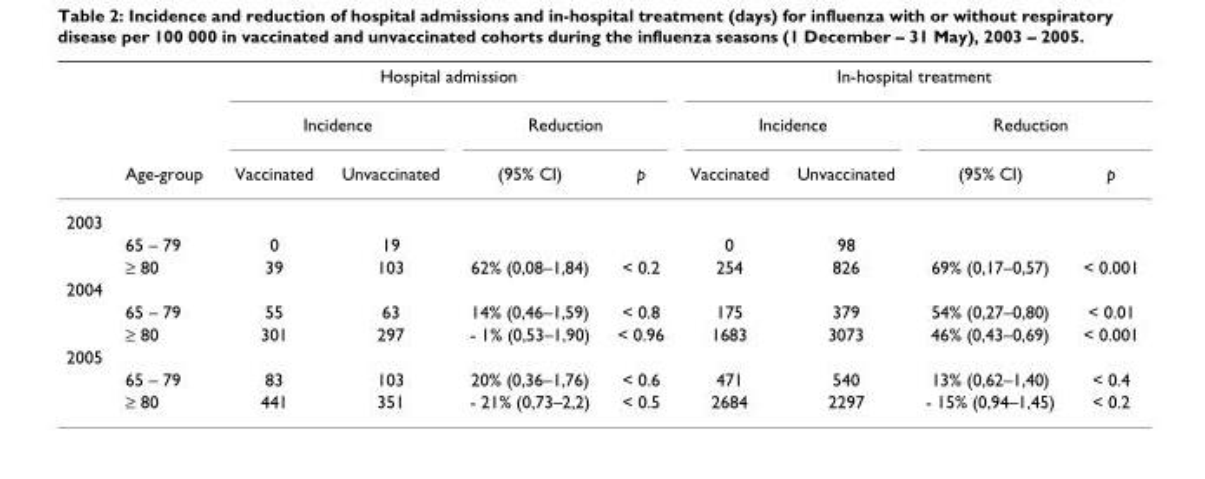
<table><thead><tr><td rowspan="3"></td><td rowspan="3">Age-group</td><td colspan="4">Hospital admission</td><td colspan="4">In-hospital treatment</td></tr><tr><td colspan="2">Incidence</td><td colspan="2">Reduction</td><td colspan="2">Incidence</td><td colspan="2">Reduction</td></tr><tr><td>Vaccinated</td><td>Unvaccinated</td><td>(95% CI)</td><td>p</td><td>Vaccinated</td><td>Unvaccinated</td><td>(95% CI)</td><td>p</td></tr></thead><tbody><tr><td colspan="10">2003</td></tr><tr><td></td><td>65 – 79</td><td>0</td><td>19</td><td></td><td></td><td>0</td><td>98</td><td></td><td></td></tr><tr><td></td><td>≥ 80</td><td>39</td><td>103</td><td>62% (0,08–1,84)</td><td>&lt; 0.2</td><td>254</td><td>826</td><td>69% (0,17–0,57)</td><td>&lt; 0.001</td></tr><tr><td colspan="10">2004</td></tr><tr><td></td><td>65 – 79</td><td>55</td><td>63</td><td>14% (0,46–1,59)</td><td>&lt; 0.8</td><td>175</td><td>379</td><td>54% (0,27–0,80)</td><td>&lt; 0.01</td></tr><tr><td></td><td>≥ 80</td><td>301</td><td>297</td><td>- 1% (0,53–1,90)</td><td>&lt; 0.96</td><td>1683</td><td>3073</td><td>46% (0,43–0,69)</td><td>&lt; 0.001</td></tr><tr><td colspan="10">2005</td></tr><tr><td></td><td>65 – 79</td><td>83</td><td>103</td><td>20% (0,36–1,76)</td><td>&lt; 0.6</td><td>471</td><td>540</td><td>13% (0,62–1,40)</td><td>&lt; 0.4</td></tr><tr><td></td><td>≥ 80</td><td>441</td><td>351</td><td>- 21% (0,73–2,2)</td><td>&lt; 0.5</td><td>2684</td><td>2297</td><td>- 15% (0,94–1,45)</td><td>&lt; 0.2</td></tr></tbody></table>